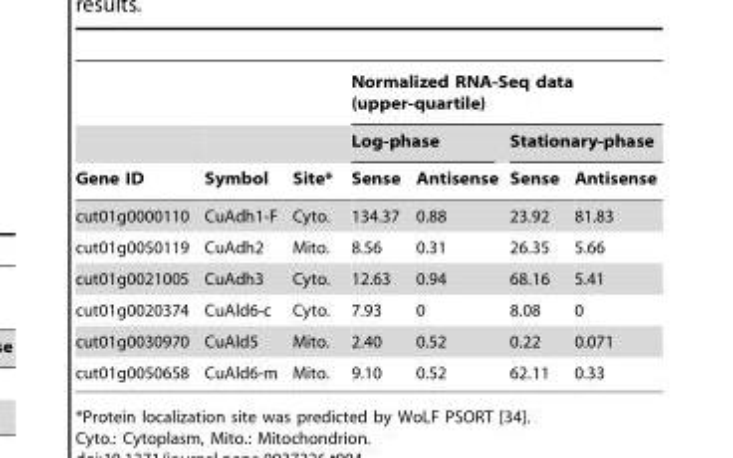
<table><thead><tr><td rowspan="3">Gene ID</td><td rowspan="3">Symbol</td><td rowspan="3">Site*</td><td colspan="4">Normalized RNA-Seq data (upper-quartile)</td></tr><tr><td colspan="2">Log-phase</td><td colspan="2">Stationary-phase</td></tr><tr><td>Sense</td><td>Antisense</td><td>Sense</td><td>Antisense</td></tr></thead><tbody><tr><td>cut01g0000110</td><td>CuAdh1-F</td><td>Cyto.</td><td>134.37</td><td>0.88</td><td>23.92</td><td>81.83</td></tr><tr><td>cut01g0050119</td><td>CuAdh2</td><td>Mito.</td><td>8.56</td><td>0.31</td><td>26.35</td><td>5.66</td></tr><tr><td>cut01g0021005</td><td>CuAdh3</td><td>Cyto.</td><td>12.63</td><td>0.94</td><td>68.16</td><td>5.41</td></tr><tr><td>cut01g0020374</td><td>CuAld6-c</td><td>Cyto.</td><td>7.93</td><td>0</td><td>8.08</td><td>0</td></tr><tr><td>cut01g0030970</td><td>CuAld5</td><td>Mito.</td><td>2.40</td><td>0.52</td><td>0.22</td><td>0.071</td></tr><tr><td>cut01g0050658</td><td>CuAld6-m</td><td>Mito.</td><td>9.10</td><td>0.52</td><td>62.11</td><td>0.33</td></tr></tbody></table>